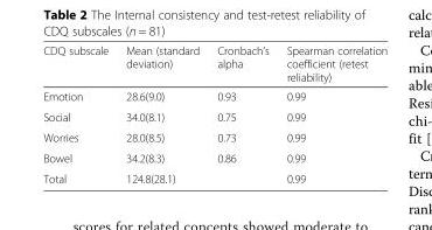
<table><thead><tr><td>CDQ subscale</td><td>Mean (standard deviation)</td><td>Cronbach’s alpha</td><td>Spearman correlation coefficient (retest reliability)</td></tr></thead><tbody><tr><td>Emotion</td><td>28.6(9.0)</td><td>0.93</td><td>0.99</td></tr><tr><td>Social</td><td>34.0(8.1)</td><td>0.75</td><td>0.99</td></tr><tr><td>Worries</td><td>28.0(8.5)</td><td>0.73</td><td>0.99</td></tr><tr><td>Bowel</td><td>34.2(8.3)</td><td>0.86</td><td>0.99</td></tr><tr><td>Total</td><td>124.8(28.1)</td><td></td><td>0.99</td></tr></tbody></table>